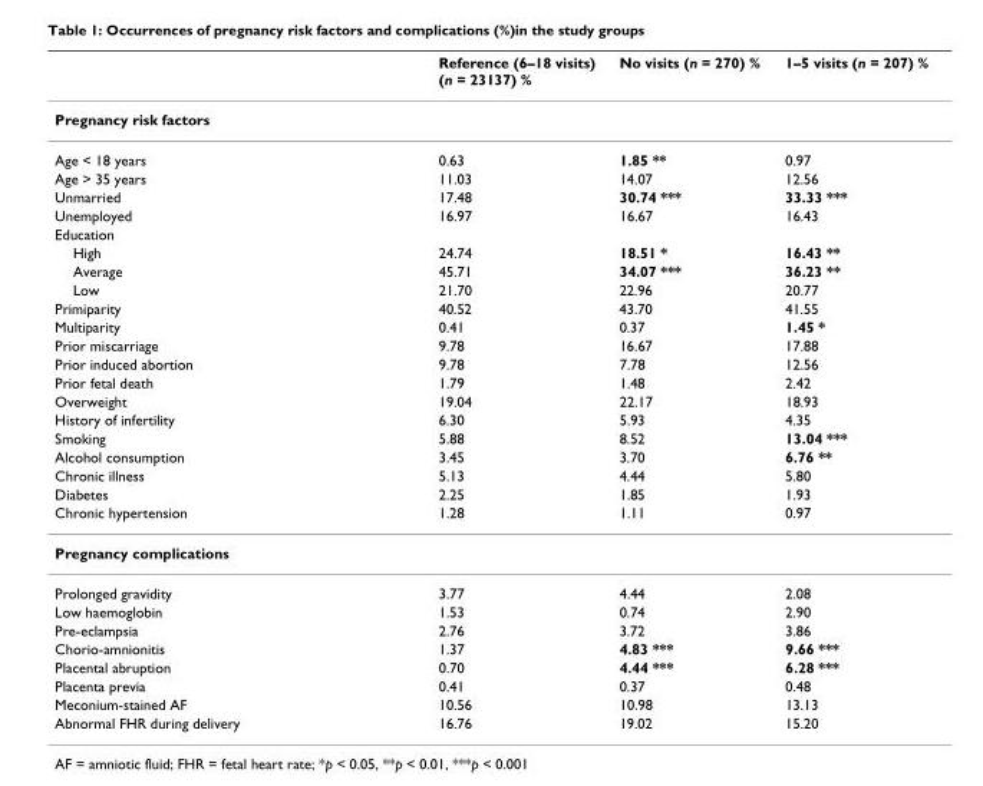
<table><thead><tr><td></td><td>Reference (6–18 visits) (n = 23137) %</td><td>No visits (n = 270) %</td><td>1–5 visits (n = 207) %</td></tr></thead><tbody><tr><td colspan="4">Pregnancy risk factors</td></tr><tr><td>Age &lt; 18 years</td><td>0.63</td><td>1.85 **</td><td>0.97</td></tr><tr><td>Age &gt; 35 years</td><td>11.03</td><td>14.07</td><td>12.56</td></tr><tr><td>Unmarried</td><td>17.48</td><td>30.74 ***</td><td>33.33 ***</td></tr><tr><td>Unemployed</td><td>16.97</td><td>16.67</td><td>16.43</td></tr><tr><td colspan="4">Education</td></tr><tr><td>High</td><td>24.74</td><td>18.51 *</td><td>16.43 **</td></tr><tr><td>Average</td><td>45.71</td><td>34.07 ***</td><td>36.23 **</td></tr><tr><td>Low</td><td>21.70</td><td>22.96</td><td>20.77</td></tr><tr><td>Primiparity</td><td>40.52</td><td>43.70</td><td>41.55</td></tr><tr><td>Multiparity</td><td>0.41</td><td>0.37</td><td>1.45 *</td></tr><tr><td>Prior miscarriage</td><td>9.78</td><td>16.67</td><td>17.88</td></tr><tr><td>Prior induced abortion</td><td>9.78</td><td>7.78</td><td>12.56</td></tr><tr><td>Prior fetal death</td><td>1.79</td><td>1.48</td><td>2.42</td></tr><tr><td>Overweight</td><td>19.04</td><td>22.17</td><td>18.93</td></tr><tr><td>History of infertility</td><td>6.30</td><td>5.93</td><td>4.35</td></tr><tr><td>Smoking</td><td>5.88</td><td>8.52</td><td>13.04 ***</td></tr><tr><td>Alcohol consumption</td><td>3.45</td><td>3.70</td><td>6.76 **</td></tr><tr><td>Chronic illness</td><td>5.13</td><td>4.44</td><td>5.80</td></tr><tr><td>Diabetes</td><td>2.25</td><td>1.85</td><td>1.93</td></tr><tr><td>Chronic hypertension</td><td>1.28</td><td>1.11</td><td>0.97</td></tr><tr><td colspan="4">Pregnancy complications</td></tr><tr><td>Prolonged gravidity</td><td>3.77</td><td>4.44</td><td>2.08</td></tr><tr><td>Low haemoglobin</td><td>1.53</td><td>0.74</td><td>2.90</td></tr><tr><td>Pre-eclampsia</td><td>2.76</td><td>3.72</td><td>3.86</td></tr><tr><td>Chorio-amnionitis</td><td>1.37</td><td>4.83 ***</td><td>9.66 ***</td></tr><tr><td>Placental abruption</td><td>0.70</td><td>4.44 ***</td><td>6.28 ***</td></tr><tr><td>Placenta previa</td><td>0.41</td><td>0.37</td><td>0.48</td></tr><tr><td>Meconium-stained AF</td><td>10.56</td><td>10.98</td><td>13.13</td></tr><tr><td>Abnormal FHR during delivery</td><td>16.76</td><td>19.02</td><td>15.20</td></tr></tbody></table>